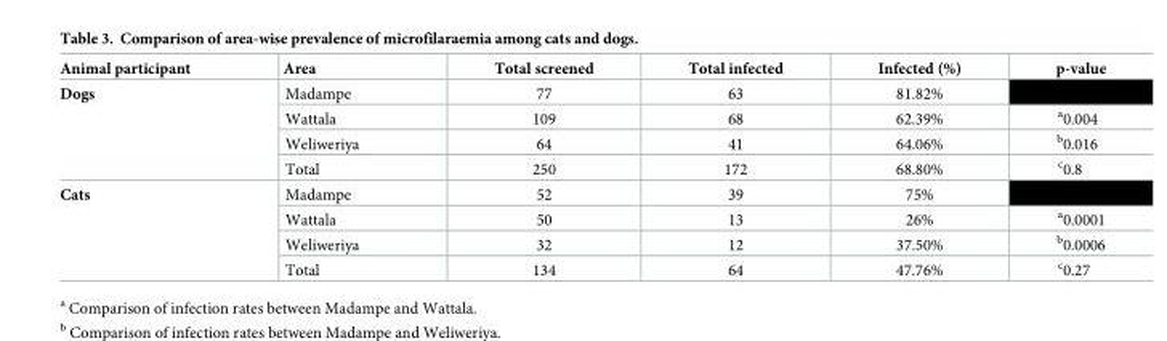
<table><thead><tr><td>Animal participant</td><td>Area</td><td>Total screened</td><td>Total infected</td><td>Infected (%)</td><td>p-value</td></tr></thead><tbody><tr><td rowspan="4">Dogs</td><td>Madampe</td><td>77</td><td>63</td><td>81.82%</td><td></td></tr><tr><td>Wattala</td><td>109</td><td>68</td><td>62.39%</td><td><sup>a</sup>0.004</td></tr><tr><td>Weliweriya</td><td>64</td><td>41</td><td>64.06%</td><td><sup>b</sup>0.016</td></tr><tr><td>Total</td><td>250</td><td>172</td><td>68.80%</td><td><sup>c</sup>0.8</td></tr><tr><td rowspan="4">Cats</td><td>Madampe</td><td>52</td><td>39</td><td>75%</td><td></td></tr><tr><td>Wattala</td><td>50</td><td>13</td><td>26%</td><td><sup>a</sup>0.0001</td></tr><tr><td>Weliweriya</td><td>32</td><td>12</td><td>37.50%</td><td><sup>b</sup>0.0006</td></tr><tr><td>Total</td><td>134</td><td>64</td><td>47.76%</td><td><sup>c</sup>0.27</td></tr></tbody></table>